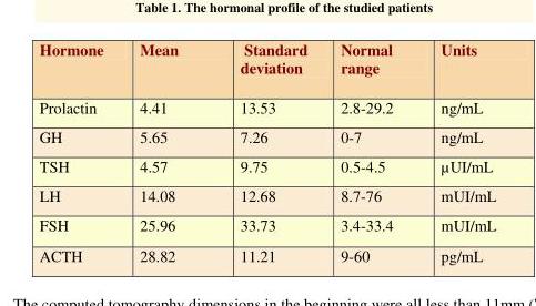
<table><thead><tr><td>Hormone</td><td>Mean</td><td>Standard deviation</td><td>Normal range</td><td>Units</td></tr></thead><tbody><tr><td>Prolactin</td><td>4.41</td><td>13.53</td><td>2.8-29.2</td><td>ng/mL</td></tr><tr><td>GH</td><td>5.65</td><td>7.26</td><td>0-7</td><td>ng/mL</td></tr><tr><td>TSH</td><td>4.57</td><td>9.75</td><td>0.5-4.5</td><td>µUI/mL</td></tr><tr><td>LH</td><td>14.08</td><td>12.68</td><td>8.7-76</td><td>mUI/mL</td></tr><tr><td>FSH</td><td>25.96</td><td>33.73</td><td>3.4-33.4</td><td>mUI/mL</td></tr><tr><td>ACTH</td><td>28.82</td><td>11.21</td><td>9-60</td><td>pg/mL</td></tr></tbody></table>